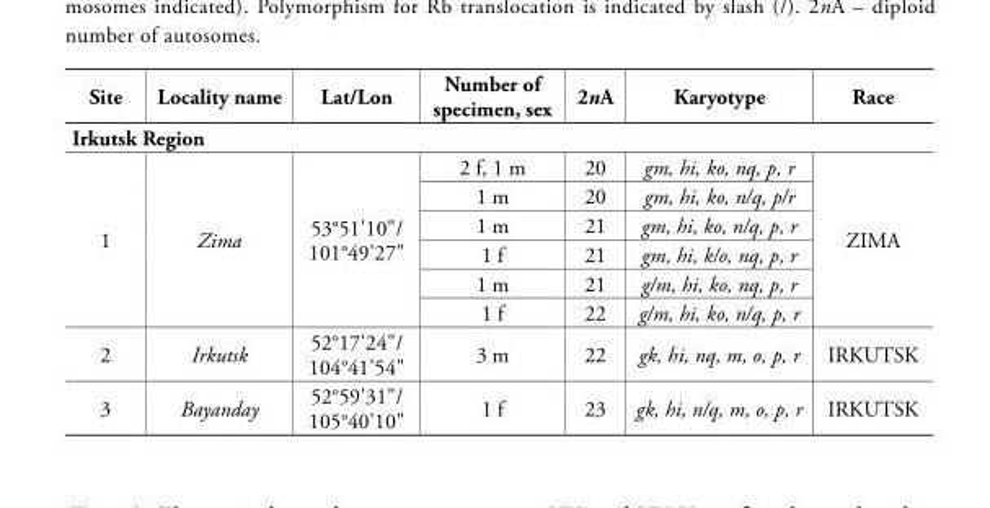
<table><thead><tr><td>Site</td><td>Locality name</td><td>Lat/Lon</td><td>Number of specimen, sex</td><td>2nA</td><td>Karyotype</td><td>Race</td></tr></thead><tbody><tr><td colspan="7">Irkutsk Region</td></tr><tr><td rowspan="6">1</td><td rowspan="6">Zima</td><td rowspan="6">53°51&#x27;10&quot;/ 101°49&#x27;27&quot;</td><td>2 f, 1 m</td><td>20</td><td>gm, hi, ko, nq, p, r</td><td rowspan="6">ZIMA</td></tr><tr><td>1 m</td><td>20</td><td>gm, hi, ko, n/q, p/r</td></tr><tr><td>1 m</td><td>21</td><td>gm, hi, ko, n/q, p, r</td></tr><tr><td>1 f</td><td>21</td><td>gm, hi, k/o, nq, p, r</td></tr><tr><td>1 m</td><td>21</td><td>g/m, hi, ko, nq, p, r</td></tr><tr><td>1 f</td><td>22</td><td>g/m, hi, ko, n/q, p, r</td></tr><tr><td>2</td><td>Irkutsk</td><td>52°17&#x27;24&quot;/ 104°41&#x27;54&quot;</td><td>3 m</td><td>22</td><td>gk, hi, nq, m, o, p, r</td><td>IRKUTSK</td></tr><tr><td>3</td><td>Bayanday</td><td>52°59&#x27;31&quot;/ 105°40&#x27;10&quot;</td><td>1 f</td><td>23</td><td>gk, hi, n/q, m, o, p, r</td><td>IRKUTSK</td></tr></tbody></table>